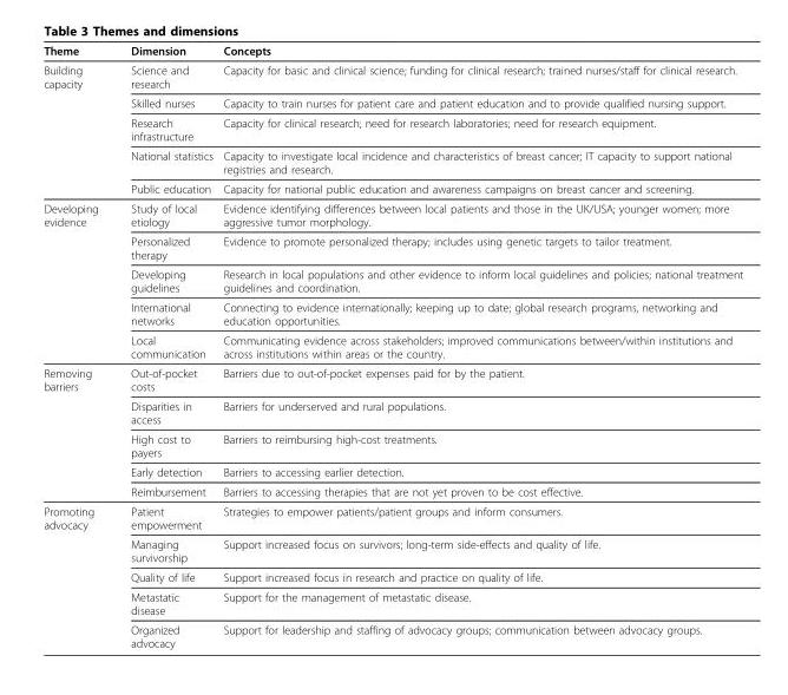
<table><thead><tr><td>Theme</td><td>Dimension</td><td>Concepts</td></tr></thead><tbody><tr><td rowspan="5">Building capacity</td><td>Science and research</td><td>Capacity for basic and clinical science; funding for clinical research; trained nurses/staff for clinical research.</td></tr><tr><td>Skilled nurses</td><td>Capacity to train nurses for patient care and patient education and to provide qualified nursing support.</td></tr><tr><td>Research infrastructure</td><td>Capacity for clinical research; need for research laboratories; need for research equipment.</td></tr><tr><td>National statistics</td><td>Capacity to investigate local incidence and characteristics of breast cancer; IT capacity to support national registries and research.</td></tr><tr><td>Public education</td><td>Capacity for national public education and awareness campaigns on breast cancer and screening.</td></tr><tr><td rowspan="5">Developing evidence</td><td>Study of local etiology</td><td>Evidence identifying differences between local patients and those in the UK/USA; younger women; more aggressive tumor morphology.</td></tr><tr><td>Personalized therapy</td><td>Evidence to promote personalized therapy; includes using genetic targets to tailor treatment.</td></tr><tr><td>Developing guidelines</td><td>Research in local populations and other evidence to inform local guidelines and policies; national treatment guidelines and coordination.</td></tr><tr><td>International networks</td><td>Connecting to evidence internationally; keeping up to date; global research programs, networking and education opportunities.</td></tr><tr><td>Local communication</td><td>Communicating evidence across stakeholders; improved communications between/within institutions and across institutions within areas or the country.</td></tr><tr><td rowspan="5">Removing barriers</td><td>Out-of-pocket costs</td><td>Barriers due to out-of-pocket expenses paid for by the patient.</td></tr><tr><td>Disparities in access</td><td>Barriers for underserved and rural populations.</td></tr><tr><td>High cost to payers</td><td>Barriers to reimbursing high-cost treatments.</td></tr><tr><td>Early detection</td><td>Barriers to accessing earlier detection.</td></tr><tr><td>Reimbursement</td><td>Barriers to accessing therapies that are not yet proven to be cost effective.</td></tr><tr><td rowspan="5">Promoting advocacy</td><td>Patient empowerment</td><td>Strategies to empower patients/patient groups and inform consumers.</td></tr><tr><td>Managing survivorship</td><td>Support increased focus on survivors; long-term side-effects and quality of life.</td></tr><tr><td>Quality of life</td><td>Support increased focus in research and practice on quality of life.</td></tr><tr><td>Metastatic disease</td><td>Support for the management of metastatic disease.</td></tr><tr><td>Organized advocacy</td><td>Support for leadership and staffing of advocacy groups; communication between advocacy groups.</td></tr></tbody></table>